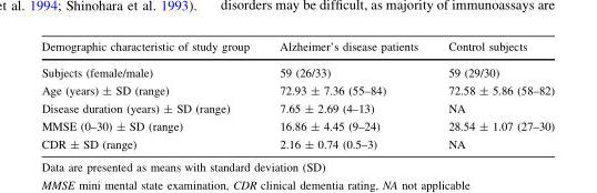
<table><thead><tr><td>Demographic characteristic of study group</td><td>Alzheimer’s disease patients</td><td>Control subjects</td></tr></thead><tbody><tr><td>Subjects (female/male)</td><td>59 (26/33)</td><td>59 (29/30)</td></tr><tr><td>Age (years) ± SD (range)</td><td>72.93 ± 7.36 (55–84)</td><td>72.58 ± 5.86 (58–82)</td></tr><tr><td>Disease duration (years) ± SD (range)</td><td>7.65 ± 2.69 (4–13)</td><td>NA</td></tr><tr><td>MMSE (0–30) ± SD (range)</td><td>16.86 ± 4.45 (9–24)</td><td>28.54 ± 1.07 (27–30)</td></tr><tr><td>CDR ± SD (range)</td><td>2.16 ± 0.74 (0.5–3)</td><td>NA</td></tr></tbody></table>